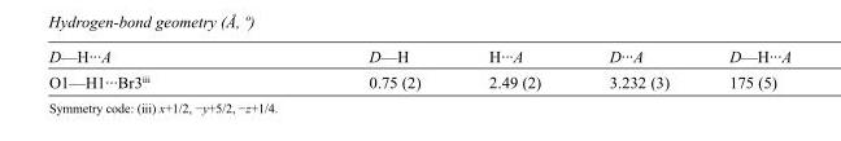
<table><tbody><tr><td>D—H···A</td><td>D—H</td><td>H···A</td><td>D···A</td><td>D—H···A</td></tr><tr><td>O1—H1···Br3<sup>iii</sup></td><td>0.75 (2)</td><td>2.49 (2)</td><td>3.232 (3)</td><td>175 (5)</td></tr></tbody></table>